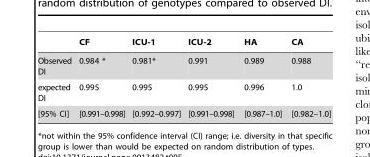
<table><thead><tr><td></td><td>CF</td><td>ICU-1</td><td>ICU-2</td><td>HA</td><td>CA</td></tr></thead><tbody><tr><td>Observed DI</td><td>0.984 *</td><td>0.981*</td><td>0.991</td><td>0.989</td><td>0.988</td></tr><tr><td>expected DI</td><td>0.995</td><td>0.995</td><td>0.995</td><td>0.996</td><td>1.0</td></tr><tr><td>[95% CI]</td><td>[0.991–0.998]</td><td>[0.992–0.997]</td><td>[0.991–0.998]</td><td>[0.987–1.0]</td><td>[0.982–1.0]</td></tr></tbody></table>